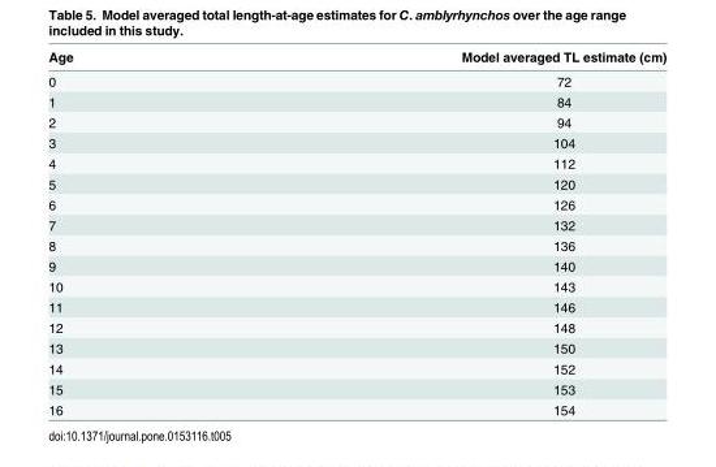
<table><thead><tr><td>Age</td><td>Model averaged TL estimate (cm)</td></tr></thead><tbody><tr><td>0</td><td>72</td></tr><tr><td>1</td><td>84</td></tr><tr><td>2</td><td>94</td></tr><tr><td>3</td><td>104</td></tr><tr><td>4</td><td>112</td></tr><tr><td>5</td><td>120</td></tr><tr><td>6</td><td>126</td></tr><tr><td>7</td><td>132</td></tr><tr><td>8</td><td>136</td></tr><tr><td>9</td><td>140</td></tr><tr><td>10</td><td>143</td></tr><tr><td>11</td><td>146</td></tr><tr><td>12</td><td>148</td></tr><tr><td>13</td><td>150</td></tr><tr><td>14</td><td>152</td></tr><tr><td>15</td><td>153</td></tr><tr><td>16</td><td>154</td></tr></tbody></table>